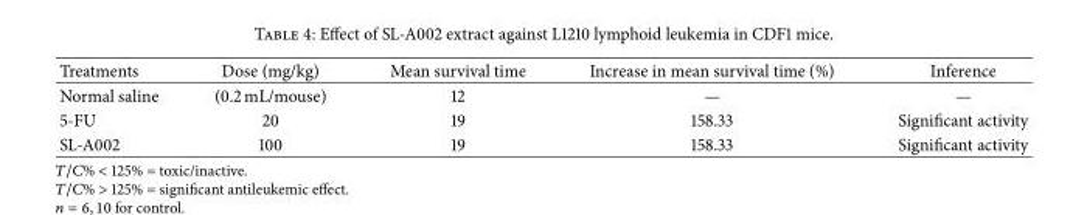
<table><thead><tr><td>Treatments</td><td>Dose (mg/kg)</td><td>Mean survival time</td><td>Increase in mean survival time (%)</td><td>Inference</td></tr></thead><tbody><tr><td>Normal saline</td><td>(0.2 mL/mouse)</td><td>12</td><td>—</td><td>—</td></tr><tr><td>5-FU</td><td>20</td><td>19</td><td>158.33</td><td>Significant activity</td></tr><tr><td>SL-A002</td><td>100</td><td>19</td><td>158.33</td><td>Significant activity</td></tr></tbody></table>